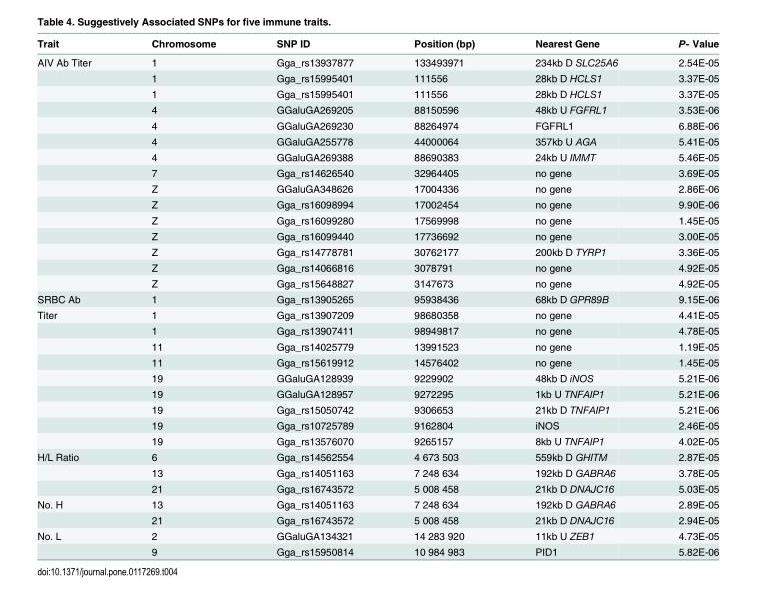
<table><thead><tr><td>Trait</td><td>Chromosome</td><td>SNP ID</td><td>Position (bp)</td><td>Nearest Gene</td><td>P- Value</td></tr></thead><tbody><tr><td rowspan="15">AIV Ab Titer</td><td>1</td><td>Gga_rs13937877</td><td>133493971</td><td>234kb D SLC25A6</td><td>2.54E-05</td></tr><tr><td>1</td><td>Gga_rs15995401</td><td>111556</td><td>28kb D HCLS1</td><td>3.37E-05</td></tr><tr><td>1</td><td>Gga_rs15995401</td><td>111556</td><td>28kb D HCLS1</td><td>3.37E-05</td></tr><tr><td>4</td><td>GGaluGA269205</td><td>88150596</td><td>48kb U FGFRL1</td><td>3.53E-06</td></tr><tr><td>4</td><td>GGaluGA269230</td><td>88264974</td><td>FGFRL1</td><td>6.88E-06</td></tr><tr><td>4</td><td>GGaluGA255778</td><td>44000064</td><td>357kb U AGA</td><td>5.41E-05</td></tr><tr><td>4</td><td>GGaluGA269388</td><td>88690383</td><td>24kb U IMMT</td><td>5.46E-05</td></tr><tr><td>7</td><td>Gga_rs14626540</td><td>32964405</td><td>no gene</td><td>3.69E-05</td></tr><tr><td>Z</td><td>GGaluGA348626</td><td>17004336</td><td>no gene</td><td>2.86E-06</td></tr><tr><td>Z</td><td>Gga_rs16098994</td><td>17002454</td><td>no gene</td><td>9.90E-06</td></tr><tr><td>Z</td><td>Gga_rs16099280</td><td>17569998</td><td>no gene</td><td>1.45E-05</td></tr><tr><td>Z</td><td>Gga_rs16099440</td><td>17736692</td><td>no gene</td><td>3.00E-05</td></tr><tr><td>Z</td><td>Gga_rs14778781</td><td>30762177</td><td>200kb D TYRP1</td><td>3.36E-05</td></tr><tr><td>Z</td><td>Gga_rs14066816</td><td>3078791</td><td>no gene</td><td>4.92E-05</td></tr><tr><td>Z</td><td>Gga_rs15648827</td><td>3147673</td><td>no gene</td><td>4.92E-05</td></tr><tr><td>SRBC Ab</td><td>1</td><td>Gga_rs13905265</td><td>95938436</td><td>68kb D GPR89B</td><td>9.15E-06</td></tr><tr><td rowspan="9">Titer</td><td>1</td><td>Gga_rs13907209</td><td>98680358</td><td>no gene</td><td>4.41E-05</td></tr><tr><td>1</td><td>Gga_rs13907411</td><td>98949817</td><td>no gene</td><td>4.78E-05</td></tr><tr><td>11</td><td>Gga_rs14025779</td><td>13991523</td><td>no gene</td><td>1.19E-05</td></tr><tr><td>11</td><td>Gga_rs15619912</td><td>14576402</td><td>no gene</td><td>1.45E-05</td></tr><tr><td>19</td><td>GGaluGA128939</td><td>9229902</td><td>48kb D iNOS</td><td>5.21E-06</td></tr><tr><td>19</td><td>GGaluGA128957</td><td>9272295</td><td>1kb U TNFAIP1</td><td>5.21E-06</td></tr><tr><td>19</td><td>Gga_rs15050742</td><td>9306653</td><td>21kb D TNFAIP1</td><td>5.21E-06</td></tr><tr><td>19</td><td>Gga_rs10725789</td><td>9162804</td><td>iNOS</td><td>2.46E-05</td></tr><tr><td>19</td><td>Gga_rs13576070</td><td>9265157</td><td>8kb U TNFAIP1</td><td>4.02E-05</td></tr><tr><td rowspan="3">H/L Ratio</td><td>6</td><td>Gga_rs14562554</td><td>4 673 503</td><td>559kb D GHITM</td><td>2.87E-05</td></tr><tr><td>13</td><td>Gga_rs14051163</td><td>7 248 634</td><td>192kb D GABRA6</td><td>3.78E-05</td></tr><tr><td>21</td><td>Gga_rs16743572</td><td>5 008 458</td><td>21kb D DNAJC16</td><td>5.03E-05</td></tr><tr><td rowspan="2">No. H</td><td>13</td><td>Gga_rs14051163</td><td>7 248 634</td><td>192kb D GABRA6</td><td>2.89E-05</td></tr><tr><td>21</td><td>Gga_rs16743572</td><td>5 008 458</td><td>21kb D DNAJC16</td><td>2.94E-05</td></tr><tr><td rowspan="2">No. L</td><td>2</td><td>GGaluGA134321</td><td>14 283 920</td><td>11kb U ZEB1</td><td>4.73E-05</td></tr><tr><td>9</td><td>Gga_rs15950814</td><td>10 984 983</td><td>PID1</td><td>5.82E-06</td></tr></tbody></table>